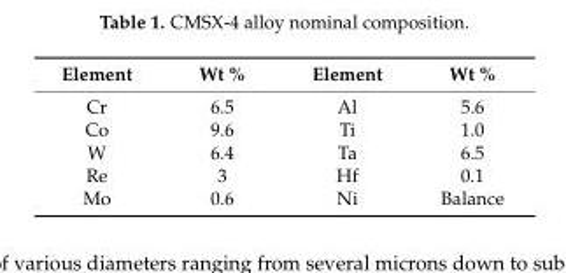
<table><thead><tr><td>Element</td><td>Wt %</td><td>Element</td><td>Wt %</td></tr></thead><tbody><tr><td>Cr</td><td>6.5</td><td>Al</td><td>5.6</td></tr><tr><td>Co</td><td>9.6</td><td>Ti</td><td>1.0</td></tr><tr><td>W</td><td>6.4</td><td>Ta</td><td>6.5</td></tr><tr><td>Re</td><td>3</td><td>Hf</td><td>0.1</td></tr><tr><td>Mo</td><td>0.6</td><td>Ni</td><td>Balance</td></tr></tbody></table>